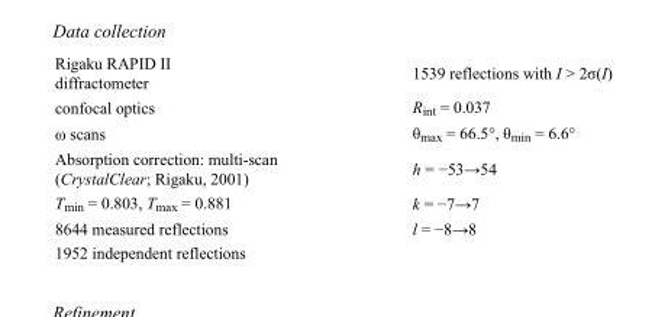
<table><tbody><tr><td>Rigaku RAPID II diffractometer</td><td>1539 reflections with I &gt; 2σ(I)</td></tr><tr><td>confocal optics</td><td>R<sub>int</sub> = 0.037</td></tr><tr><td>ω scans</td><td>θ<sub>max</sub> = 66.5°, θ<sub>min</sub> = 6.6°</td></tr><tr><td>Absorption correction: multi-scan (CrystalClear; Rigaku, 2001)</td><td>h = −53→54</td></tr><tr><td>T<sub>min</sub> = 0.803, T<sub>max</sub> = 0.881</td><td>k = −7→7</td></tr><tr><td>8644 measured reflections</td><td>l = −8→8</td></tr><tr><td>1952 independent reflections</td><td></td></tr></tbody></table>